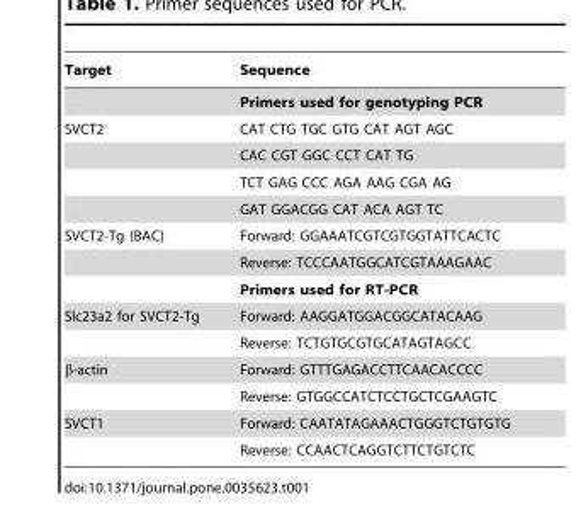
<table><thead><tr><td>Target</td><td>Sequence</td></tr></thead><tbody><tr><td></td><td>Primers used for genotyping PCR</td></tr><tr><td rowspan="4">SVCT2</td><td>CAT CTG TGC GTG CAT AGT AGC</td></tr><tr><td>CAC CGT GGC CCT CAT TG</td></tr><tr><td>TCT GAG CCC AGA AAG CGA AG</td></tr><tr><td>GAT GGACGG CAT ACA AGT TC</td></tr><tr><td rowspan="3">SVCT2-Tg (BAC)</td><td>Forward: GGAAATCGTCGTGGTATTCACTC</td></tr><tr><td>Reverse: TCCCAATGGCATCGTAAAGAAC</td></tr><tr><td>Primers used for RT-PCR</td></tr><tr><td rowspan="2">Slc23a2 for SVCT2-Tg</td><td>Forward: AAGGATGGACGGCATACAAG</td></tr><tr><td>Reverse: TCTGTGCGTGCATAGTAGCC</td></tr><tr><td rowspan="2">β-actin</td><td>Forward: GTTTGAGACCTTCAACACCCC</td></tr><tr><td>Reverse: GTGGCCATCTCCTGCTCGAAGTC</td></tr><tr><td rowspan="2">SVCT1</td><td>Forward: CAATATAGAAACTGGGTCTGTGTG</td></tr><tr><td>Reverse: CCAACTCAGGTCTTCTGTCTC</td></tr></tbody></table>